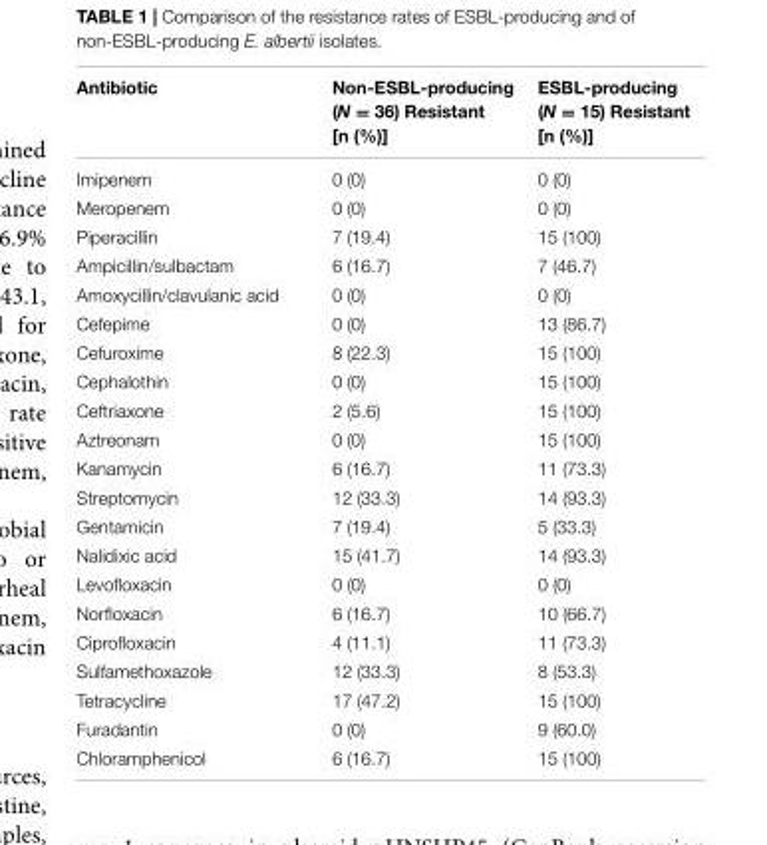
<table><thead><tr><td>Antibiotic</td><td>Non-ESBL-producing (N = 36) Resistant [n (%)]</td><td>ESBL-producing (N = 15) Resistant [n (%)]</td></tr></thead><tbody><tr><td>Imipenem</td><td>0 (0)</td><td>0 (0)</td></tr><tr><td>Meropenem</td><td>0 (0)</td><td>0 (0)</td></tr><tr><td>Piperacillin</td><td>7 (19.4)</td><td>15 (100)</td></tr><tr><td>Ampicillin/sulbactam</td><td>6 (16.7)</td><td>7 (46.7)</td></tr><tr><td>Amoxycillin/clavulanic acid</td><td>0 (0)</td><td>0 (0)</td></tr><tr><td>Cefepime</td><td>0 (0)</td><td>13 (86.7)</td></tr><tr><td>Cefuroxime</td><td>8 (22.3)</td><td>15 (100)</td></tr><tr><td>Cephalothin</td><td>0 (0)</td><td>15 (100)</td></tr><tr><td>Ceftriaxone</td><td>2 (5.6)</td><td>15 (100)</td></tr><tr><td>Aztreonam</td><td>0 (0)</td><td>15 (100)</td></tr><tr><td>Kanamycin</td><td>6 (16.7)</td><td>11 (73.3)</td></tr><tr><td>Streptomycin</td><td>12 (33.3)</td><td>14 (93.3)</td></tr><tr><td>Gentamicin</td><td>7 (19.4)</td><td>5 (33.3)</td></tr><tr><td>Nalidixic acid</td><td>15 (41.7)</td><td>14 (93.3)</td></tr><tr><td>Levofloxacin</td><td>0 (0)</td><td>0 (0)</td></tr><tr><td>Norfloxacin</td><td>6 (16.7)</td><td>10 (66.7)</td></tr><tr><td>Ciprofloxacin</td><td>4 (11.1)</td><td>11 (73.3)</td></tr><tr><td>Sulfamethoxazole</td><td>12 (33.3)</td><td>8 (53.3)</td></tr><tr><td>Tetracycline</td><td>17 (47.2)</td><td>15 (100)</td></tr><tr><td>Furadantin</td><td>0 (0)</td><td>9 (60.0)</td></tr><tr><td>Chloramphenicol</td><td>6 (16.7)</td><td>15 (100)</td></tr></tbody></table>